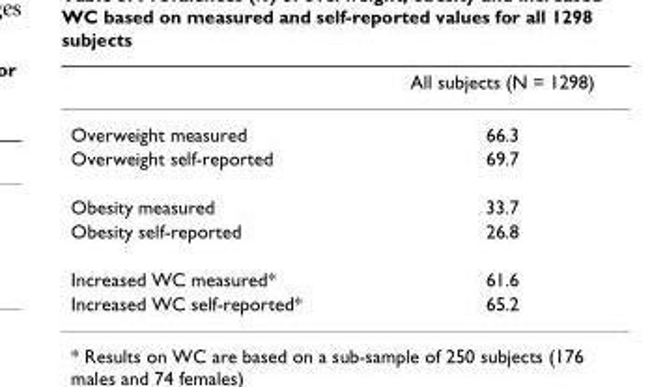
<table><thead><tr><td></td><td>All subjects (N = 1298)</td></tr></thead><tbody><tr><td>Overweight measured</td><td>66.3</td></tr><tr><td>Overweight self-reported</td><td>69.7</td></tr><tr><td>Obesity measured</td><td>33.7</td></tr><tr><td>Obesity self-reported</td><td>26.8</td></tr><tr><td>Increased WC measured*</td><td>61.6</td></tr><tr><td>Increased WC self-reported*</td><td>65.2</td></tr></tbody></table>